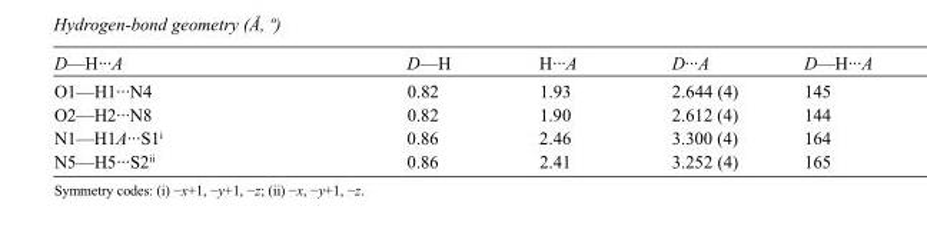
<table><tbody><tr><td>D—H···A</td><td>D—H</td><td>H···A</td><td>D···A</td><td>D—H···A</td></tr><tr><td>O1—H1···N4</td><td>0.82</td><td>1.93</td><td>2.644 (4)</td><td>145</td></tr><tr><td>O2—H2···N8</td><td>0.82</td><td>1.90</td><td>2.612 (4)</td><td>144</td></tr><tr><td>N1—H1A···S1<sup>i</sup></td><td>0.86</td><td>2.46</td><td>3.300 (4)</td><td>164</td></tr><tr><td>N5—H5···S2<sup>ii</sup></td><td>0.86</td><td>2.41</td><td>3.252 (4)</td><td>165</td></tr></tbody></table>